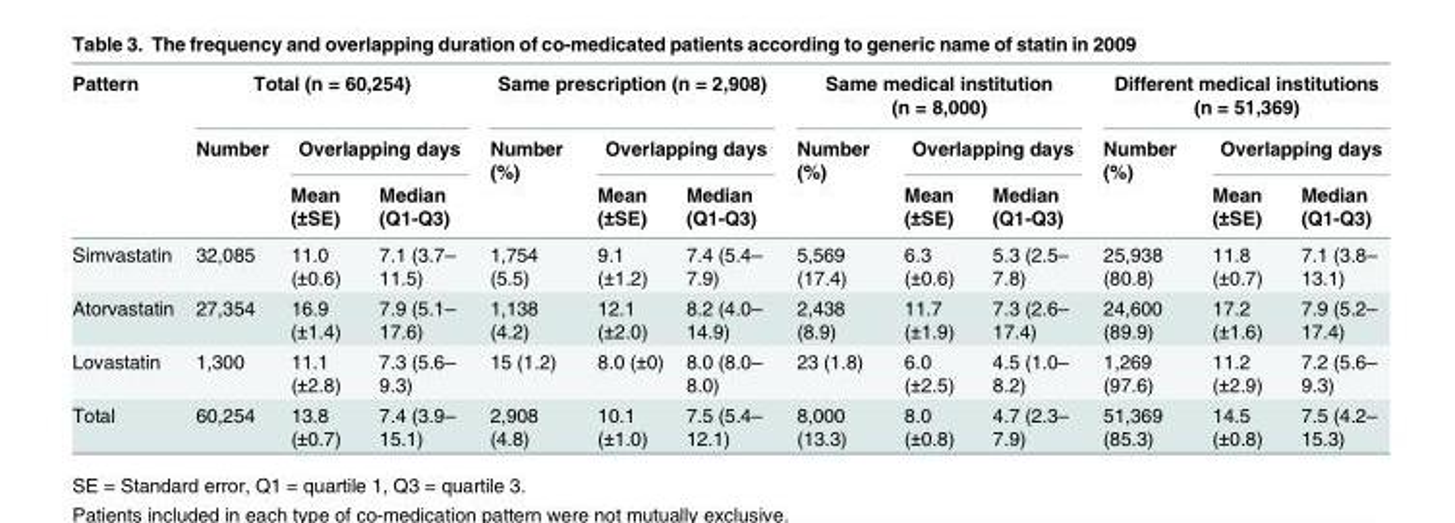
<table><thead><tr><td rowspan="3">Pattern</td><td colspan="3">Total (n = 60,254)</td><td colspan="3">Same prescription (n = 2,908)</td><td colspan="3">Same medical institution (n = 8,000)</td><td colspan="3">Different medical institutions (n = 51,369)</td></tr><tr><td rowspan="2">Number</td><td colspan="2">Overlapping days</td><td rowspan="2">Number (%)</td><td colspan="2">Overlapping days</td><td rowspan="2">Number (%)</td><td colspan="2">Overlapping days</td><td rowspan="2">Number (%)</td><td colspan="2">Overlapping days</td></tr><tr><td>Mean (±SE)</td><td>Median (Q1-Q3)</td><td>Mean (±SE)</td><td>Median (Q1-Q3)</td><td>Mean (±SE)</td><td>Median (Q1-Q3)</td><td>Mean (±SE)</td><td>Median (Q1-Q3)</td></tr></thead><tbody><tr><td>Simvastatin</td><td>32,085</td><td>11.0 (±0.6)</td><td>7.1 (3.7– 11.5)</td><td>1,754 (5.5)</td><td>9.1 (±1.2)</td><td>7.4 (5.4– 7.9)</td><td>5,569 (17.4)</td><td>6.3 (±0.6)</td><td>5.3 (2.5– 7.8)</td><td>25,938 (80.8)</td><td>11.8 (±0.7)</td><td>7.1 (3.8– 13.1)</td></tr><tr><td>Atorvastatin</td><td>27,354</td><td>16.9 (±1.4)</td><td>7.9 (5.1– 17.6)</td><td>1,138 (4.2)</td><td>12.1 (±2.0)</td><td>8.2 (4.0– 14.9)</td><td>2,438 (8.9)</td><td>11.7 (±1.9)</td><td>7.3 (2.6– 17.4)</td><td>24,600 (89.9)</td><td>17.2 (±1.6)</td><td>7.9 (5.2– 17.4)</td></tr><tr><td>Lovastatin</td><td>1,300</td><td>11.1 (±2.8)</td><td>7.3 (5.6– 9.3)</td><td>15 (1.2)</td><td>8.0 (±0)</td><td>8.0 (8.0– 8.0)</td><td>23 (1.8)</td><td>6.0 (±2.5)</td><td>4.5 (1.0– 8.2)</td><td>1,269 (97.6)</td><td>11.2 (±2.9)</td><td>7.2 (5.6– 9.3)</td></tr><tr><td>Total</td><td>60,254</td><td>13.8 (±0.7)</td><td>7.4 (3.9– 15.1)</td><td>2,908 (4.8)</td><td>10.1 (±1.0)</td><td>7.5 (5.4– 12.1)</td><td>8,000 (13.3)</td><td>8.0 (±0.8)</td><td>4.7 (2.3– 7.9)</td><td>51,369 (85.3)</td><td>14.5 (±0.8)</td><td>7.5 (4.2– 15.3)</td></tr></tbody></table>